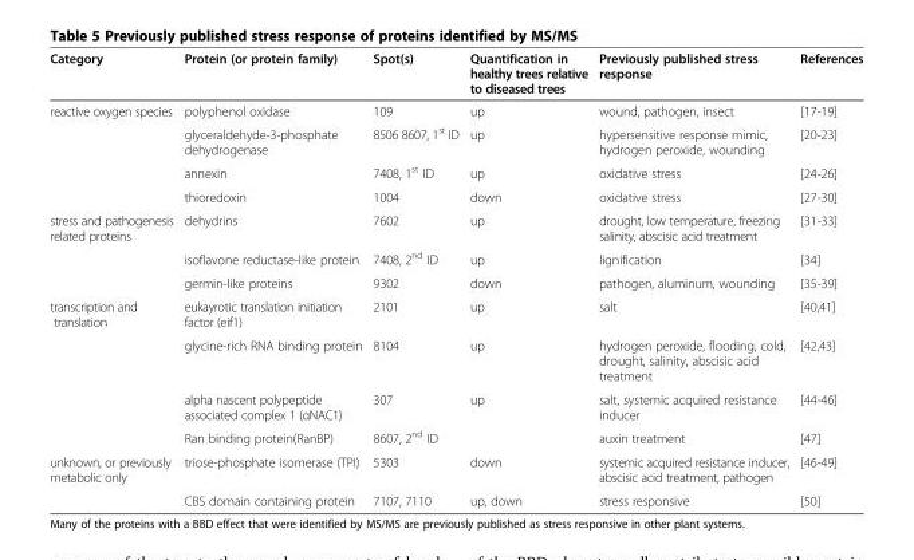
<table><thead><tr><td>Category</td><td>Protein (or protein family)</td><td>Spot(s)</td><td>Quantification in healthy trees relative to diseased trees</td><td>Previously published stress response</td><td>References</td></tr></thead><tbody><tr><td rowspan="4">reactive oxygen species</td><td>polyphenol oxidase</td><td>109</td><td>up</td><td>wound, pathogen, insect</td><td>[17-19]</td></tr><tr><td>glyceraldehyde-3-phosphate dehydrogenase</td><td>8506 8607, 1<sup>st</sup> ID</td><td>up</td><td>hypersensitive response mimic, hydrogen peroxide, wounding</td><td>[20-23]</td></tr><tr><td>annexin</td><td>7408, 1<sup>st</sup> ID</td><td>up</td><td>oxidative stress</td><td>[24-26]</td></tr><tr><td>thioredoxin</td><td>1004</td><td>down</td><td>oxidative stress</td><td>[27-30]</td></tr><tr><td rowspan="3">stress and pathogenesis related proteins</td><td>dehydrins</td><td>7602</td><td>up</td><td>drought, low temperature, freezing salinity, abscisic acid treatment</td><td>[31-33]</td></tr><tr><td>isoflavone reductase-like protein</td><td>7408, 2<sup>nd</sup> ID</td><td>up</td><td>lignification</td><td>[34]</td></tr><tr><td>germin-like proteins</td><td>9302</td><td>down</td><td>pathogen, aluminum, wounding</td><td>[35-39]</td></tr><tr><td rowspan="4">transcription and translation</td><td>eukayrotic translation initiation factor (eif1)</td><td>2101</td><td>up</td><td>salt</td><td>[40,41]</td></tr><tr><td>glycine-rich RNA binding protein</td><td>8104</td><td>up</td><td>hydrogen peroxide, flooding, cold, drought, salinity, abscisic acid treatment</td><td>[42,43]</td></tr><tr><td>alpha nascent polypeptide associated complex 1 (αNAC1)</td><td>307</td><td>up</td><td>salt, systemic acquired resistance inducer</td><td>[44-46]</td></tr><tr><td>Ran binding protein(RanBP)</td><td>8607, 2<sup>nd</sup> ID</td><td></td><td>auxin treatment</td><td>[47]</td></tr><tr><td rowspan="2">unknown, or previously metabolic only</td><td>triose-phosphate isomerase (TPI)</td><td>5303</td><td>down</td><td>systemic acquired resistance inducer, abscisic acid treatment, pathogen</td><td>[46-49]</td></tr><tr><td>CBS domain containing protein</td><td>7107, 7110</td><td>up, down</td><td>stress responsive</td><td>[50]</td></tr></tbody></table>